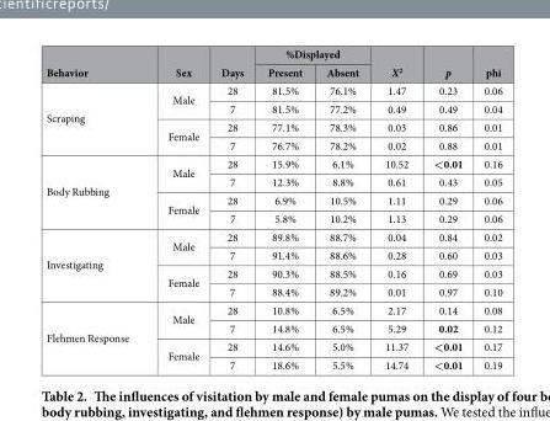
<table><thead><tr><td rowspan="2">Behavior</td><td rowspan="2">Sex</td><td rowspan="2">Days</td><td colspan="2">%Displayed</td><td rowspan="2">X<sup>2</sup></td><td rowspan="2">p</td><td rowspan="2">phi</td></tr><tr><td>Present</td><td>Absent</td></tr></thead><tbody><tr><td rowspan="4">Scraping</td><td rowspan="2">Male</td><td>28</td><td>81.5%</td><td>76.1%</td><td>1.47</td><td>0.23</td><td>0.06</td></tr><tr><td>7</td><td>81.5%</td><td>77.2%</td><td>0.49</td><td>0.49</td><td>0.04</td></tr><tr><td rowspan="2">Female</td><td>28</td><td>77.1%</td><td>78.3%</td><td>0.03</td><td>0.86</td><td>0.01</td></tr><tr><td>7</td><td>76.7%</td><td>78.2%</td><td>0.02</td><td>0.88</td><td>0.01</td></tr><tr><td rowspan="4">Body Rubbing</td><td rowspan="2">Male</td><td>28</td><td>15.9%</td><td>6.1%</td><td>10.52</td><td>&lt;0.01</td><td>0.16</td></tr><tr><td>7</td><td>12.3%</td><td>8.8%</td><td>0.61</td><td>0.43</td><td>0.05</td></tr><tr><td rowspan="2">Female</td><td>28</td><td>6.9%</td><td>10.5%</td><td>1.11</td><td>0.29</td><td>0.06</td></tr><tr><td>7</td><td>5.8%</td><td>10.2%</td><td>1.13</td><td>0.29</td><td>0.06</td></tr><tr><td rowspan="4">Investigating</td><td rowspan="2">Male</td><td>28</td><td>89.8%</td><td>88.7%</td><td>0.04</td><td>0.84</td><td>0.02</td></tr><tr><td>7</td><td>91.4%</td><td>88.6%</td><td>0.28</td><td>0.60</td><td>0.03</td></tr><tr><td rowspan="2">Female</td><td>28</td><td>90.3%</td><td>88.5%</td><td>0.16</td><td>0.69</td><td>0.03</td></tr><tr><td>7</td><td>88.4%</td><td>89.2%</td><td>0.01</td><td>0.97</td><td>0.10</td></tr><tr><td rowspan="4">Flehmen Response</td><td rowspan="2">Male</td><td>28</td><td>10.8%</td><td>6.5%</td><td>2.17</td><td>0.14</td><td>0.08</td></tr><tr><td>7</td><td>14.8%</td><td>6.5%</td><td>5.29</td><td>0.02</td><td>0.12</td></tr><tr><td rowspan="2">Female</td><td>28</td><td>14.6%</td><td>5.0%</td><td>11.37</td><td>&lt;0.01</td><td>0.17</td></tr><tr><td>7</td><td>18.6%</td><td>5.5%</td><td>14.74</td><td>&lt;0.01</td><td>0.19</td></tr></tbody></table>